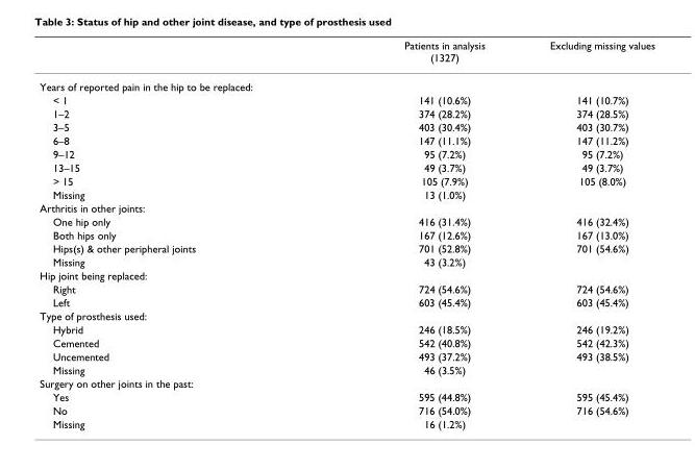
<table><thead><tr><td></td><td>Patients in analysis (1327)</td><td>Excluding missing values</td></tr></thead><tbody><tr><td colspan="3">Years of reported pain in the hip to be replaced:</td></tr><tr><td>&lt; 1</td><td>141 (10.6%)</td><td>141 (10.7%)</td></tr><tr><td>1–2</td><td>374 (28.2%)</td><td>374 (28.5%)</td></tr><tr><td>3–5</td><td>403 (30.4%)</td><td>403 (30.7%)</td></tr><tr><td>6–8</td><td>147 (11.1%)</td><td>147 (11.2%)</td></tr><tr><td>9–12</td><td>95 (7.2%)</td><td>95 (7.2%)</td></tr><tr><td>13–15</td><td>49 (3.7%)</td><td>49 (3.7%)</td></tr><tr><td>&gt; 15</td><td>105 (7.9%)</td><td>105 (8.0%)</td></tr><tr><td>Missing</td><td>13 (1.0%)</td><td></td></tr><tr><td colspan="3">Arthritis in other joints:</td></tr><tr><td>One hip only</td><td>416 (31.4%)</td><td>416 (32.4%)</td></tr><tr><td>Both hips only</td><td>167 (12.6%)</td><td>167 (13.0%)</td></tr><tr><td>Hips(s) &amp; other peripheral joints</td><td>701 (52.8%)</td><td>701 (54.6%)</td></tr><tr><td>Missing</td><td>43 (3.2%)</td><td></td></tr><tr><td colspan="3">Hip joint being replaced:</td></tr><tr><td>Right</td><td>724 (54.6%)</td><td>724 (54.6%)</td></tr><tr><td>Left</td><td>603 (45.4%)</td><td>603 (45.4%)</td></tr><tr><td colspan="3">Type of prosthesis used:</td></tr><tr><td>Hybrid</td><td>246 (18.5%)</td><td>246 (19.2%)</td></tr><tr><td>Cemented</td><td>542 (40.8%)</td><td>542 (42.3%)</td></tr><tr><td>Uncemented</td><td>493 (37.2%)</td><td>493 (38.5%)</td></tr><tr><td>Missing</td><td>46 (3.5%)</td><td></td></tr><tr><td colspan="3">Surgery on other joints in the past:</td></tr><tr><td>Yes</td><td>595 (44.8%)</td><td>595 (45.4%)</td></tr><tr><td>No</td><td>716 (54.0%)</td><td>716 (54.6%)</td></tr><tr><td>Missing</td><td>16 (1.2%)</td><td></td></tr></tbody></table>